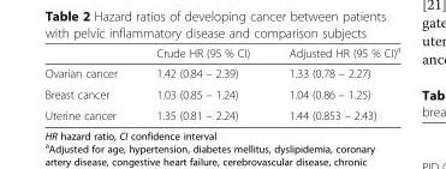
<table><thead><tr><td></td><td>Crude HR (95 % CI)</td><td>Adjusted HR (95 % CI)<sup>a</sup></td></tr></thead><tbody><tr><td>Ovarian cancer</td><td>1.42 (0.84 – 2.39)</td><td>1.33 (0.78 – 2.27)</td></tr><tr><td>Breast cancer</td><td>1.03 (0.85 – 1.24)</td><td>1.04 (0.86 – 1.25)</td></tr><tr><td>Uterine cancer</td><td>1.35 (0.81 – 2.24)</td><td>1.44 (0.853 – 2.43)</td></tr></tbody></table>